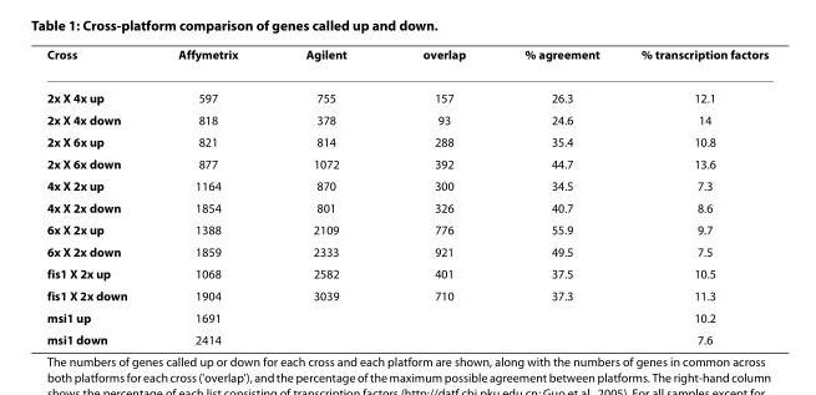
<table><thead><tr><td>Cross</td><td>Affymetrix</td><td>Agilent</td><td>overlap</td><td>% agreement</td><td>% transcription factors</td></tr></thead><tbody><tr><td>2x X 4x up</td><td>597</td><td>755</td><td>157</td><td>26.3</td><td>12.1</td></tr><tr><td>2x X 4x down</td><td>818</td><td>378</td><td>93</td><td>24.6</td><td>14</td></tr><tr><td>2x X 6x up</td><td>821</td><td>814</td><td>288</td><td>35.4</td><td>10.8</td></tr><tr><td>2x X 6x down</td><td>877</td><td>1072</td><td>392</td><td>44.7</td><td>13.6</td></tr><tr><td>4x X 2x up</td><td>1164</td><td>870</td><td>300</td><td>34.5</td><td>7.3</td></tr><tr><td>4x X 2x down</td><td>1854</td><td>801</td><td>326</td><td>40.7</td><td>8.6</td></tr><tr><td>6x X 2x up</td><td>1388</td><td>2109</td><td>776</td><td>55.9</td><td>9.7</td></tr><tr><td>6x X 2x down</td><td>1859</td><td>2333</td><td>921</td><td>49.5</td><td>7.5</td></tr><tr><td>fis1 X 2x up</td><td>1068</td><td>2582</td><td>401</td><td>37.5</td><td>10.5</td></tr><tr><td>fis1 X 2x down</td><td>1904</td><td>3039</td><td>710</td><td>37.3</td><td>11.3</td></tr><tr><td>msi1 up</td><td>1691</td><td></td><td></td><td></td><td>10.2</td></tr><tr><td>msi1 down</td><td>2414</td><td></td><td></td><td></td><td>7.6</td></tr></tbody></table>